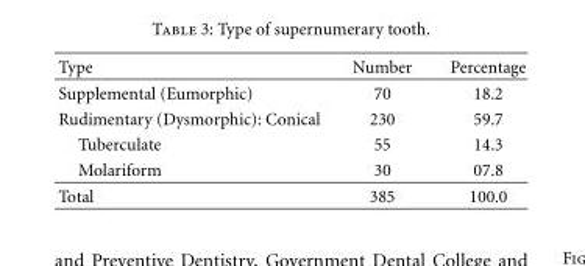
<table><thead><tr><td>Type</td><td>Number</td><td>Percentage</td></tr></thead><tbody><tr><td>Supplemental (Eumorphic)</td><td>70</td><td>18.2</td></tr><tr><td>Rudimentary (Dysmorphic): Conical</td><td>230</td><td>59.7</td></tr><tr><td>Tuberculate</td><td>55</td><td>14.3</td></tr><tr><td>Molariform</td><td>30</td><td>07.8</td></tr><tr><td>Total</td><td>385</td><td>100.0</td></tr></tbody></table>